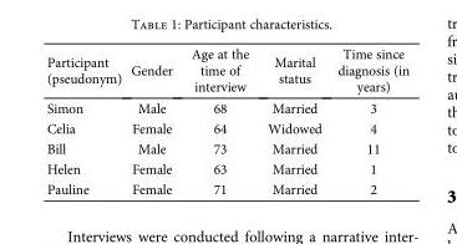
<table><thead><tr><td>Participant (pseudonym)</td><td>Gender</td><td>Age at the time of interview</td><td>Marital status</td><td>Time since diagnosis (in years)</td></tr></thead><tbody><tr><td>Simon</td><td>Male</td><td>68</td><td>Married</td><td>3</td></tr><tr><td>Celia</td><td>Female</td><td>64</td><td>Widowed</td><td>4</td></tr><tr><td>Bill</td><td>Male</td><td>73</td><td>Married</td><td>11</td></tr><tr><td>Helen</td><td>Female</td><td>63</td><td>Married</td><td>1</td></tr><tr><td>Pauline</td><td>Female</td><td>71</td><td>Married</td><td>2</td></tr></tbody></table>